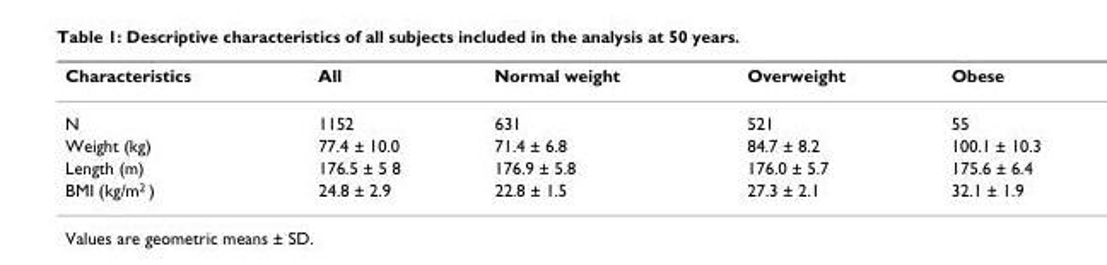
<table><thead><tr><td>Characteristics</td><td>All</td><td>Normal weight</td><td>Overweight</td><td>Obese</td></tr></thead><tbody><tr><td>N</td><td>1152</td><td>631</td><td>521</td><td>55</td></tr><tr><td>Weight (kg)</td><td>77.4 ± 10.0</td><td>71.4 ± 6.8</td><td>84.7 ± 8.2</td><td>100.1 ± 10.3</td></tr><tr><td>Length (m)</td><td>176.5 ± 5 8</td><td>176.9 ± 5.8</td><td>176.0 ± 5.7</td><td>175.6 ± 6.4</td></tr><tr><td>BMI (kg/m<sup>2</sup> )</td><td>24.8 ± 2.9</td><td>22.8 ± 1.5</td><td>27.3 ± 2.1</td><td>32.1 ± 1.9</td></tr></tbody></table>